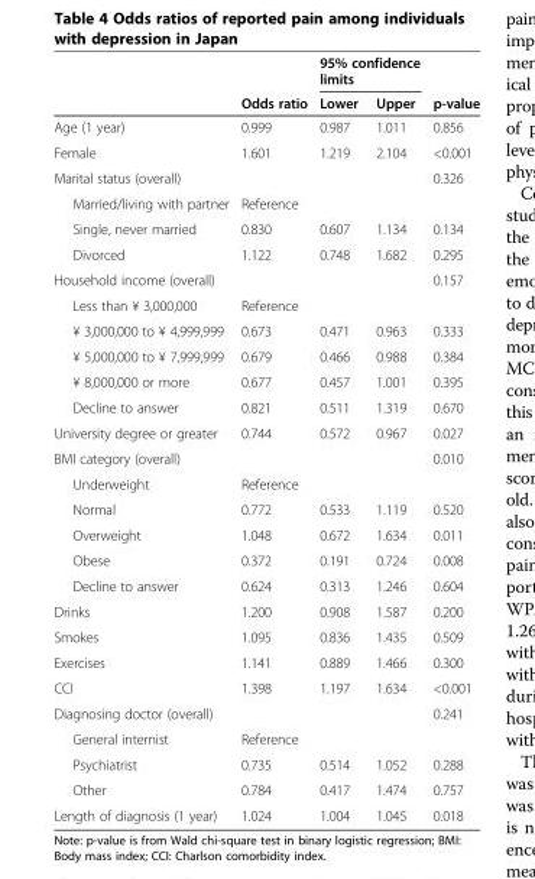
<table><thead><tr><td rowspan="2"></td><td rowspan="2">Odds ratio</td><td colspan="2">95% confidence limits</td><td rowspan="2">p-value</td></tr><tr><td>Lower</td><td>Upper</td></tr></thead><tbody><tr><td>Age (1 year)</td><td>0.999</td><td>0.987</td><td>1.011</td><td>0.856</td></tr><tr><td>Female</td><td>1.601</td><td>1.219</td><td>2.104</td><td>&lt;0.001</td></tr><tr><td>Marital status (overall)</td><td></td><td></td><td></td><td>0.326</td></tr><tr><td>Married/living with partner</td><td colspan="3">Reference</td><td></td></tr><tr><td>Single, never married</td><td>0.830</td><td>0.607</td><td>1.134</td><td>0.134</td></tr><tr><td>Divorced</td><td>1.122</td><td>0.748</td><td>1.682</td><td>0.295</td></tr><tr><td>Household income (overall)</td><td></td><td></td><td></td><td>0.157</td></tr><tr><td>Less than ¥ 3,000,000</td><td colspan="3">Reference</td><td></td></tr><tr><td>¥ 3,000,000 to ¥ 4,999,999</td><td>0.673</td><td>0.471</td><td>0.963</td><td>0.333</td></tr><tr><td>¥ 5,000,000 to ¥ 7,999,999</td><td>0.679</td><td>0.466</td><td>0.988</td><td>0.384</td></tr><tr><td>¥ 8,000,000 or more</td><td>0.677</td><td>0.457</td><td>1.001</td><td>0.395</td></tr><tr><td>Decline to answer</td><td>0.821</td><td>0.511</td><td>1.319</td><td>0.670</td></tr><tr><td>University degree or greater</td><td>0.744</td><td>0.572</td><td>0.967</td><td>0.027</td></tr><tr><td>BMI category (overall)</td><td></td><td></td><td></td><td>0.010</td></tr><tr><td>Underweight</td><td colspan="3">Reference</td><td></td></tr><tr><td>Normal</td><td>0.772</td><td>0.533</td><td>1.119</td><td>0.520</td></tr><tr><td>Overweight</td><td>1.048</td><td>0.672</td><td>1.634</td><td>0.011</td></tr><tr><td>Obese</td><td>0.372</td><td>0.191</td><td>0.724</td><td>0.008</td></tr><tr><td>Decline to answer</td><td>0.624</td><td>0.313</td><td>1.246</td><td>0.604</td></tr><tr><td>Drinks</td><td>1.200</td><td>0.908</td><td>1.587</td><td>0.200</td></tr><tr><td>Smokes</td><td>1.095</td><td>0.836</td><td>1.435</td><td>0.509</td></tr><tr><td>Exercises</td><td>1.141</td><td>0.889</td><td>1.466</td><td>0.300</td></tr><tr><td>CCI</td><td>1.398</td><td>1.197</td><td>1.634</td><td>&lt;0.001</td></tr><tr><td>Diagnosing doctor (overall)</td><td></td><td></td><td></td><td>0.241</td></tr><tr><td>General internist</td><td colspan="3">Reference</td><td></td></tr><tr><td>Psychiatrist</td><td>0.735</td><td>0.514</td><td>1.052</td><td>0.288</td></tr><tr><td>Other</td><td>0.784</td><td>0.417</td><td>1.474</td><td>0.757</td></tr><tr><td>Length of diagnosis (1 year)</td><td>1.024</td><td>1.004</td><td>1.045</td><td>0.018</td></tr></tbody></table>